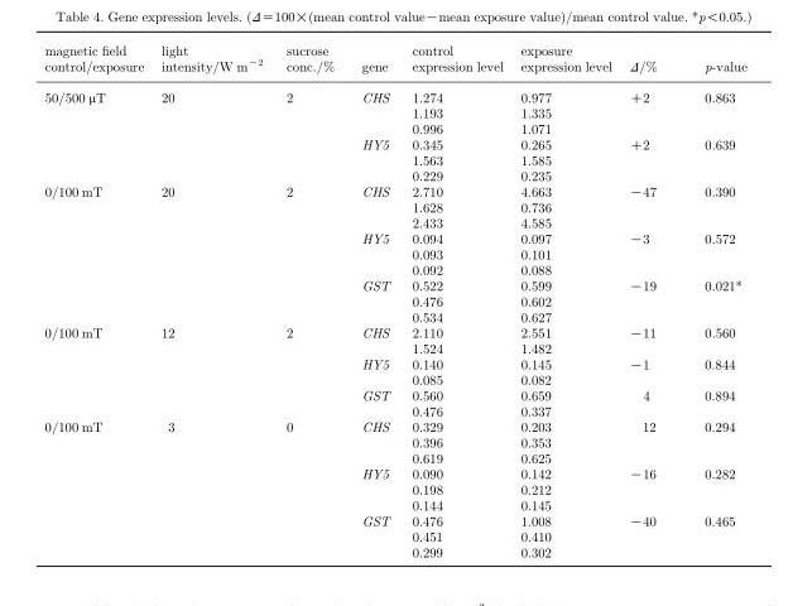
<table><thead><tr><td>magnetic field control/exposure</td><td>light intensity/W m<sup>−2</sup></td><td>sucrose conc./%</td><td>gene</td><td>control expression level</td><td>exposure expression level</td><td>Δ/%</td><td>p-value</td></tr></thead><tbody><tr><td rowspan="6">50/500 μT</td><td>20</td><td>2</td><td>CHS</td><td>1.274</td><td>0.977</td><td>+2</td><td>0.863</td></tr><tr><td></td><td></td><td></td><td>1.193</td><td>1.335</td><td></td><td></td></tr><tr><td></td><td></td><td></td><td>0.996</td><td>1.071</td><td></td><td></td></tr><tr><td></td><td></td><td>HY5</td><td>0.345</td><td>0.265</td><td>+2</td><td>0.639</td></tr><tr><td></td><td></td><td></td><td>1.563</td><td>1.585</td><td></td><td></td></tr><tr><td></td><td></td><td></td><td>0.229</td><td>0.235</td><td></td><td></td></tr><tr><td rowspan="9">0/100 mT</td><td>20</td><td>2</td><td>CHS</td><td>2.710</td><td>4.663</td><td>−47</td><td>0.390</td></tr><tr><td></td><td></td><td></td><td>1.628</td><td>0.736</td><td></td><td></td></tr><tr><td></td><td></td><td></td><td>2.433</td><td>4.585</td><td></td><td></td></tr><tr><td></td><td></td><td>HY5</td><td>0.094</td><td>0.097</td><td>−3</td><td>0.572</td></tr><tr><td></td><td></td><td></td><td>0.093</td><td>0.101</td><td></td><td></td></tr><tr><td></td><td></td><td></td><td>0.092</td><td>0.088</td><td></td><td></td></tr><tr><td></td><td></td><td>GST</td><td>0.522</td><td>0.599</td><td>−19</td><td>0.021*</td></tr><tr><td></td><td></td><td></td><td>0.476</td><td>0.602</td><td></td><td></td></tr><tr><td></td><td></td><td></td><td>0.534</td><td>0.627</td><td></td><td></td></tr><tr><td rowspan="6">0/100 mT</td><td>12</td><td>2</td><td>CHS</td><td>2.110</td><td>2.551</td><td>−11</td><td>0.560</td></tr><tr><td></td><td></td><td></td><td>1.524</td><td>1.482</td><td></td><td></td></tr><tr><td></td><td></td><td>HY5</td><td>0.140</td><td>0.145</td><td>−1</td><td>0.844</td></tr><tr><td></td><td></td><td></td><td>0.085</td><td>0.082</td><td></td><td></td></tr><tr><td></td><td></td><td>GST</td><td>0.560</td><td>0.659</td><td>4</td><td>0.894</td></tr><tr><td></td><td></td><td></td><td>0.476</td><td>0.337</td><td></td><td></td></tr><tr><td rowspan="9">0/100 mT</td><td>3</td><td>0</td><td>CHS</td><td>0.329</td><td>0.203</td><td>12</td><td>0.294</td></tr><tr><td></td><td></td><td></td><td>0.396</td><td>0.353</td><td></td><td></td></tr><tr><td></td><td></td><td></td><td>0.619</td><td>0.625</td><td></td><td></td></tr><tr><td></td><td></td><td>HY5</td><td>0.090</td><td>0.142</td><td>−16</td><td>0.282</td></tr><tr><td></td><td></td><td></td><td>0.198</td><td>0.212</td><td></td><td></td></tr><tr><td></td><td></td><td></td><td>0.144</td><td>0.145</td><td></td><td></td></tr><tr><td></td><td></td><td>GST</td><td>0.476</td><td>1.008</td><td>−40</td><td>0.465</td></tr><tr><td></td><td></td><td></td><td>0.451</td><td>0.410</td><td></td><td></td></tr><tr><td></td><td></td><td></td><td>0.299</td><td>0.302</td><td></td><td></td></tr></tbody></table>